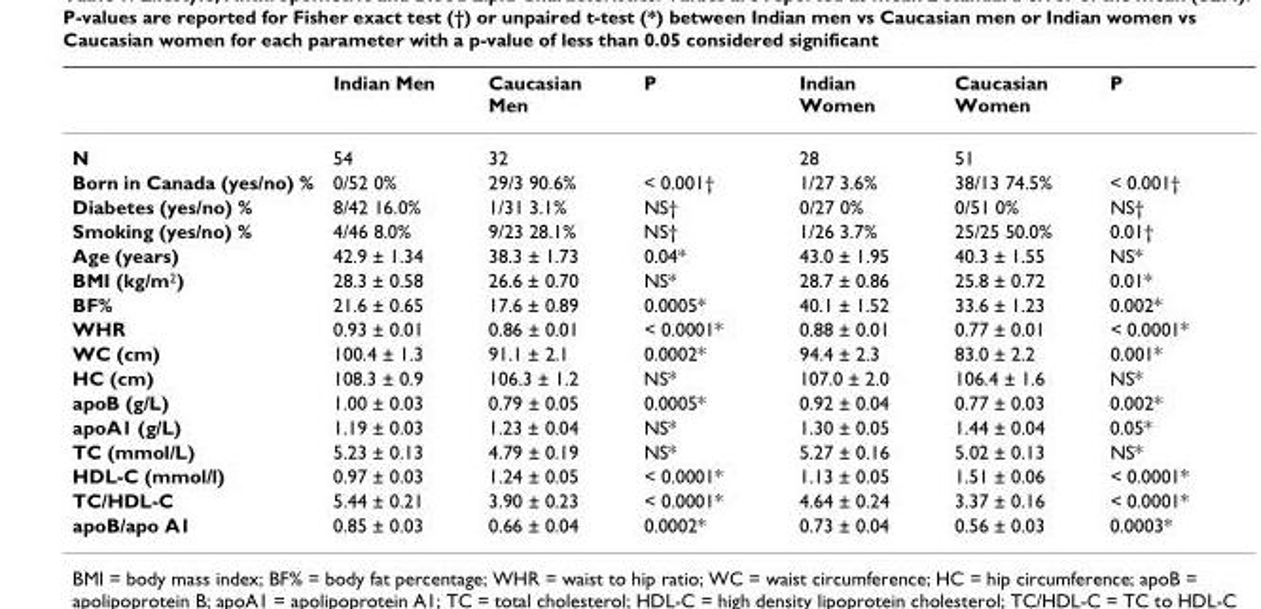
<table><thead><tr><td></td><td>Indian Men</td><td>Caucasian Men</td><td>P</td><td>Indian Women</td><td>Caucasian Women</td><td>P</td></tr></thead><tbody><tr><td>N</td><td>54</td><td>32</td><td></td><td>28</td><td>51</td><td></td></tr><tr><td>Born in Canada (yes/no) %</td><td>0/52 0%</td><td>29/3 90.6%</td><td>&lt; 0.001†</td><td>1/27 3.6%</td><td>38/13 74.5%</td><td>&lt; 0.001†</td></tr><tr><td>Diabetes (yes/no) %</td><td>8/42 16.0%</td><td>1/31 3.1%</td><td>NS†</td><td>0/27 0%</td><td>0/51 0%</td><td>NS†</td></tr><tr><td>Smoking (yes/no) %</td><td>4/46 8.0%</td><td>9/23 28.1%</td><td>NS†</td><td>1/26 3.7%</td><td>25/25 50.0%</td><td>0.01†</td></tr><tr><td>Age (years)</td><td>42.9 ± 1.34</td><td>38.3 ± 1.73</td><td>0.04*</td><td>43.0 ± 1.95</td><td>40.3 ± 1.55</td><td>NS*</td></tr><tr><td>BMI (kg/m<sup>2</sup>)</td><td>28.3 ± 0.58</td><td>26.6 ± 0.70</td><td>NS*</td><td>28.7 ± 0.86</td><td>25.8 ± 0.72</td><td>0.01*</td></tr><tr><td>BF%</td><td>21.6 ± 0.65</td><td>17.6 ± 0.89</td><td>0.0005*</td><td>40.1 ± 1.52</td><td>33.6 ± 1.23</td><td>0.002*</td></tr><tr><td>WHR</td><td>0.93 ± 0.01</td><td>0.86 ± 0.01</td><td>&lt; 0.0001*</td><td>0.88 ± 0.01</td><td>0.77 ± 0.01</td><td>&lt; 0.0001*</td></tr><tr><td>WC (cm)</td><td>100.4 ± 1.3</td><td>91.1 ± 2.1</td><td>0.0002*</td><td>94.4 ± 2.3</td><td>83.0 ± 2.2</td><td>0.001*</td></tr><tr><td>HC (cm)</td><td>108.3 ± 0.9</td><td>106.3 ± 1.2</td><td>NS*</td><td>107.0 ± 2.0</td><td>106.4 ± 1.6</td><td>NS*</td></tr><tr><td>apoB (g/L)</td><td>1.00 ± 0.03</td><td>0.79 ± 0.05</td><td>0.0005*</td><td>0.92 ± 0.04</td><td>0.77 ± 0.03</td><td>0.002*</td></tr><tr><td>apoA1 (g/L)</td><td>1.19 ± 0.03</td><td>1.23 ± 0.04</td><td>NS*</td><td>1.30 ± 0.05</td><td>1.44 ± 0.04</td><td>0.05*</td></tr><tr><td>TC (mmol/L)</td><td>5.23 ± 0.13</td><td>4.79 ± 0.19</td><td>NS*</td><td>5.27 ± 0.16</td><td>5.02 ± 0.13</td><td>NS*</td></tr><tr><td>HDL-C (mmol/l)</td><td>0.97 ± 0.03</td><td>1.24 ± 0.05</td><td>&lt; 0.0001*</td><td>1.13 ± 0.05</td><td>1.51 ± 0.06</td><td>&lt; 0.0001*</td></tr><tr><td>TC/HDL-C</td><td>5.44 ± 0.21</td><td>3.90 ± 0.23</td><td>&lt; 0.0001*</td><td>4.64 ± 0.24</td><td>3.37 ± 0.16</td><td>&lt; 0.0001*</td></tr><tr><td>apoB/apo A1</td><td>0.85 ± 0.03</td><td>0.66 ± 0.04</td><td>0.0002*</td><td>0.73 ± 0.04</td><td>0.56 ± 0.03</td><td>0.0003*</td></tr></tbody></table>